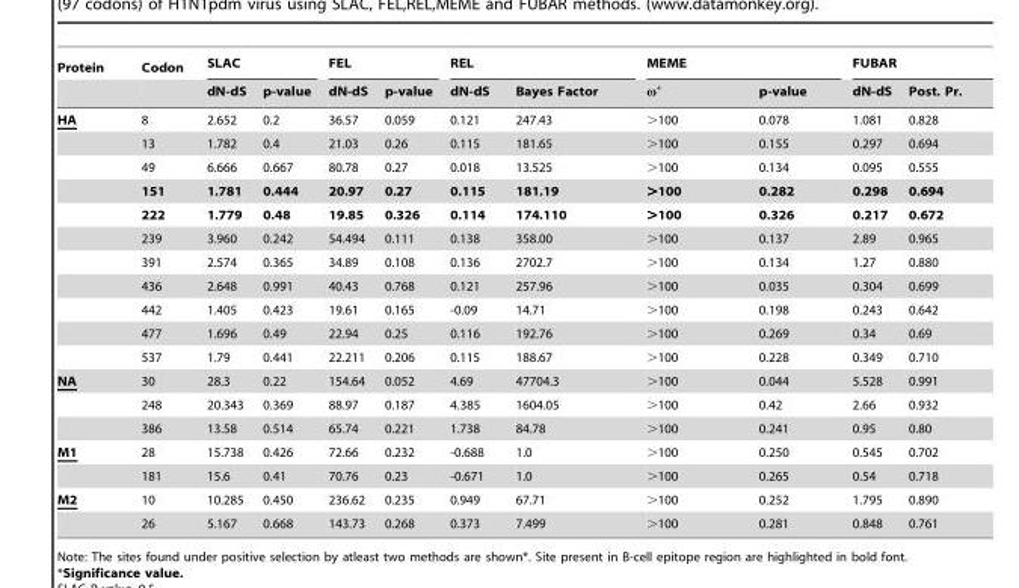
<table><thead><tr><td rowspan="2">Protein</td><td rowspan="2">Codon</td><td colspan="2">SLAC</td><td colspan="2">FEL</td><td colspan="2">REL</td><td colspan="2">MEME</td><td colspan="2">FUBAR</td></tr><tr><td>dN-dS</td><td>p-value</td><td>dN-dS</td><td>p-value</td><td>dN-dS</td><td>Bayes Factor</td><td>ω<sup>+</sup></td><td>p-value</td><td>dN-dS</td><td>Post. Pr.</td></tr></thead><tbody><tr><td rowspan="11">HA</td><td>8</td><td>2.652</td><td>0.2</td><td>36.57</td><td>0.059</td><td>0.121</td><td>247.43</td><td>&gt;100</td><td>0.078</td><td>1.081</td><td>0.828</td></tr><tr><td>13</td><td>1.782</td><td>0.4</td><td>21.03</td><td>0.26</td><td>0.115</td><td>181.65</td><td>&gt;100</td><td>0.155</td><td>0.297</td><td>0.694</td></tr><tr><td>49</td><td>6.666</td><td>0.667</td><td>80.78</td><td>0.27</td><td>0.018</td><td>13.525</td><td>&gt;100</td><td>0.134</td><td>0.095</td><td>0.555</td></tr><tr><td>151</td><td>1.781</td><td>0.444</td><td>20.97</td><td>0.27</td><td>0.115</td><td>181.19</td><td>&gt;100</td><td>0.282</td><td>0.298</td><td>0.694</td></tr><tr><td>222</td><td>1.779</td><td>0.48</td><td>19.85</td><td>0.326</td><td>0.114</td><td>174.110</td><td>&gt;100</td><td>0.326</td><td>0.217</td><td>0.672</td></tr><tr><td>239</td><td>3.960</td><td>0.242</td><td>54.494</td><td>0.111</td><td>0.138</td><td>358.00</td><td>&gt;100</td><td>0.137</td><td>2.89</td><td>0.965</td></tr><tr><td>391</td><td>2.574</td><td>0.365</td><td>34.89</td><td>0.108</td><td>0.136</td><td>2702.7</td><td>&gt;100</td><td>0.134</td><td>1.27</td><td>0.880</td></tr><tr><td>436</td><td>2.648</td><td>0.991</td><td>40.43</td><td>0.768</td><td>0.121</td><td>257.96</td><td>&gt;100</td><td>0.035</td><td>0.304</td><td>0.699</td></tr><tr><td>442</td><td>1.405</td><td>0.423</td><td>19.61</td><td>0.165</td><td>-0.09</td><td>14.71</td><td>&gt;100</td><td>0.198</td><td>0.243</td><td>0.642</td></tr><tr><td>477</td><td>1.696</td><td>0.49</td><td>22.94</td><td>0.25</td><td>0.116</td><td>192.76</td><td>&gt;100</td><td>0.269</td><td>0.34</td><td>0.69</td></tr><tr><td>537</td><td>1.79</td><td>0.441</td><td>22.211</td><td>0.206</td><td>0.115</td><td>188.67</td><td>&gt;100</td><td>0.228</td><td>0.349</td><td>0.710</td></tr><tr><td rowspan="3">NA</td><td>30</td><td>28.3</td><td>0.22</td><td>154.64</td><td>0.052</td><td>4.69</td><td>47704.3</td><td>&gt;100</td><td>0.044</td><td>5.528</td><td>0.991</td></tr><tr><td>248</td><td>20.343</td><td>0.369</td><td>88.97</td><td>0.187</td><td>4.385</td><td>1604.05</td><td>&gt;100</td><td>0.42</td><td>2.66</td><td>0.932</td></tr><tr><td>386</td><td>13.58</td><td>0.514</td><td>65.74</td><td>0.221</td><td>1.738</td><td>84.78</td><td>&gt;100</td><td>0.241</td><td>0.95</td><td>0.80</td></tr><tr><td rowspan="2">M1</td><td>28</td><td>15.738</td><td>0.426</td><td>72.66</td><td>0.232</td><td>-0.688</td><td>1.0</td><td>&gt;100</td><td>0.250</td><td>0.545</td><td>0.702</td></tr><tr><td>181</td><td>15.6</td><td>0.41</td><td>70.76</td><td>0.23</td><td>-0.671</td><td>1.0</td><td>&gt;100</td><td>0.265</td><td>0.54</td><td>0.718</td></tr><tr><td rowspan="2">M2</td><td>10</td><td>10.285</td><td>0.450</td><td>236.62</td><td>0.235</td><td>0.949</td><td>67.71</td><td>&gt;100</td><td>0.252</td><td>1.795</td><td>0.890</td></tr><tr><td>26</td><td>5.167</td><td>0.668</td><td>143.73</td><td>0.268</td><td>0.373</td><td>7.499</td><td>&gt;100</td><td>0.281</td><td>0.848</td><td>0.761</td></tr></tbody></table>